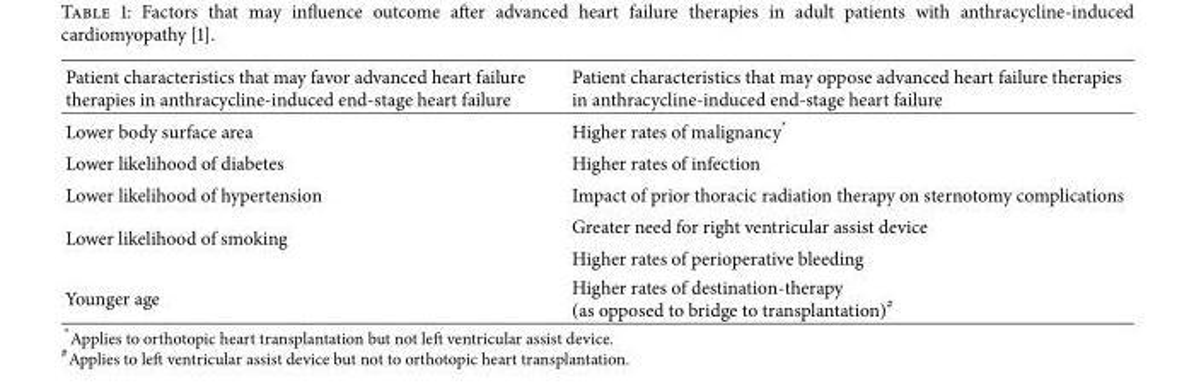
<table><thead><tr><td>Patient characteristics that may favor advanced heart failure therapies in anthracycline-induced end-stage heart failure</td><td>Patient characteristics that may oppose advanced heart failure therapies in anthracycline-induced end-stage heart failure</td></tr></thead><tbody><tr><td>Lower body surface area</td><td>Higher rates of malignancy*</td></tr><tr><td>Lower likelihood of diabetes</td><td>Higher rates of infection</td></tr><tr><td>Lower likelihood of hypertension</td><td>Impact of prior thoracic radiation therapy on sternotomy complications</td></tr><tr><td rowspan="2">Lower likelihood of smoking</td><td>Greater need for right ventricular assist device</td></tr><tr><td>Higher rates of perioperative bleeding</td></tr><tr><td>Younger age</td><td>Higher rates of destination-therapy (as opposed to bridge to transplantation)<sup>#</sup></td></tr></tbody></table>